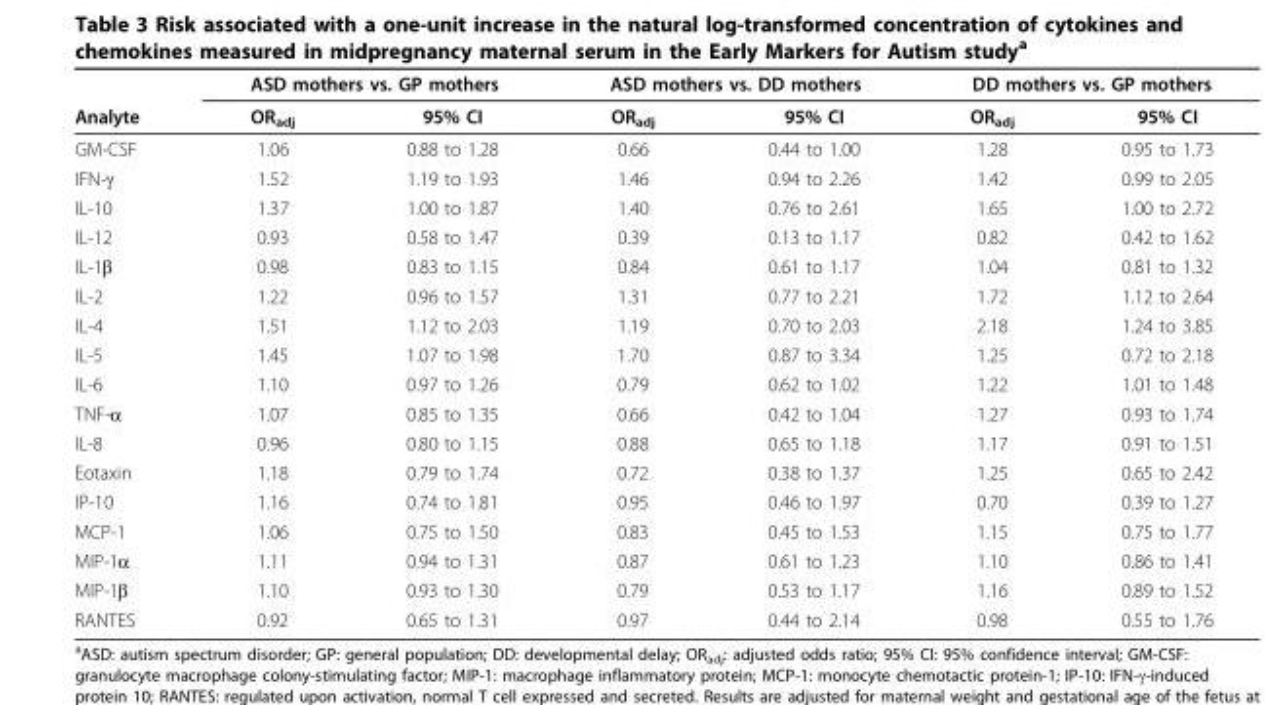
<table><thead><tr><td rowspan="2">Analyte</td><td colspan="2">ASD mothers vs. GP mothers</td><td colspan="2">ASD mothers vs. DD mothers</td><td colspan="2">DD mothers vs. GP mothers</td></tr><tr><td>OR<sub>adj</sub></td><td>95% CI</td><td>OR<sub>adj</sub></td><td>95% CI</td><td>OR<sub>adj</sub></td><td>95% CI</td></tr></thead><tbody><tr><td>GM-CSF</td><td>1.06</td><td>0.88 to 1.28</td><td>0.66</td><td>0.44 to 1.00</td><td>1.28</td><td>0.95 to 1.73</td></tr><tr><td>IFN-γ</td><td>1.52</td><td>1.19 to 1.93</td><td>1.46</td><td>0.94 to 2.26</td><td>1.42</td><td>0.99 to 2.05</td></tr><tr><td>IL-10</td><td>1.37</td><td>1.00 to 1.87</td><td>1.40</td><td>0.76 to 2.61</td><td>1.65</td><td>1.00 to 2.72</td></tr><tr><td>IL-12</td><td>0.93</td><td>0.58 to 1.47</td><td>0.39</td><td>0.13 to 1.17</td><td>0.82</td><td>0.42 to 1.62</td></tr><tr><td>IL-1β</td><td>0.98</td><td>0.83 to 1.15</td><td>0.84</td><td>0.61 to 1.17</td><td>1.04</td><td>0.81 to 1.32</td></tr><tr><td>IL-2</td><td>1.22</td><td>0.96 to 1.57</td><td>1.31</td><td>0.77 to 2.21</td><td>1.72</td><td>1.12 to 2.64</td></tr><tr><td>IL-4</td><td>1.51</td><td>1.12 to 2.03</td><td>1.19</td><td>0.70 to 2.03</td><td>2.18</td><td>1.24 to 3.85</td></tr><tr><td>IL-5</td><td>1.45</td><td>1.07 to 1.98</td><td>1.70</td><td>0.87 to 3.34</td><td>1.25</td><td>0.72 to 2.18</td></tr><tr><td>IL-6</td><td>1.10</td><td>0.97 to 1.26</td><td>0.79</td><td>0.62 to 1.02</td><td>1.22</td><td>1.01 to 1.48</td></tr><tr><td>TNF-α</td><td>1.07</td><td>0.85 to 1.35</td><td>0.66</td><td>0.42 to 1.04</td><td>1.27</td><td>0.93 to 1.74</td></tr><tr><td>IL-8</td><td>0.96</td><td>0.80 to 1.15</td><td>0.88</td><td>0.65 to 1.18</td><td>1.17</td><td>0.91 to 1.51</td></tr><tr><td>Eotaxin</td><td>1.18</td><td>0.79 to 1.74</td><td>0.72</td><td>0.38 to 1.37</td><td>1.25</td><td>0.65 to 2.42</td></tr><tr><td>IP-10</td><td>1.16</td><td>0.74 to 1.81</td><td>0.95</td><td>0.46 to 1.97</td><td>0.70</td><td>0.39 to 1.27</td></tr><tr><td>MCP-1</td><td>1.06</td><td>0.75 to 1.50</td><td>0.83</td><td>0.45 to 1.53</td><td>1.15</td><td>0.75 to 1.77</td></tr><tr><td>MIP-1α</td><td>1.11</td><td>0.94 to 1.31</td><td>0.87</td><td>0.61 to 1.23</td><td>1.10</td><td>0.86 to 1.41</td></tr><tr><td>MIP-1β</td><td>1.10</td><td>0.93 to 1.30</td><td>0.79</td><td>0.53 to 1.17</td><td>1.16</td><td>0.89 to 1.52</td></tr><tr><td>RANTES</td><td>0.92</td><td>0.65 to 1.31</td><td>0.97</td><td>0.44 to 2.14</td><td>0.98</td><td>0.55 to 1.76</td></tr></tbody></table>